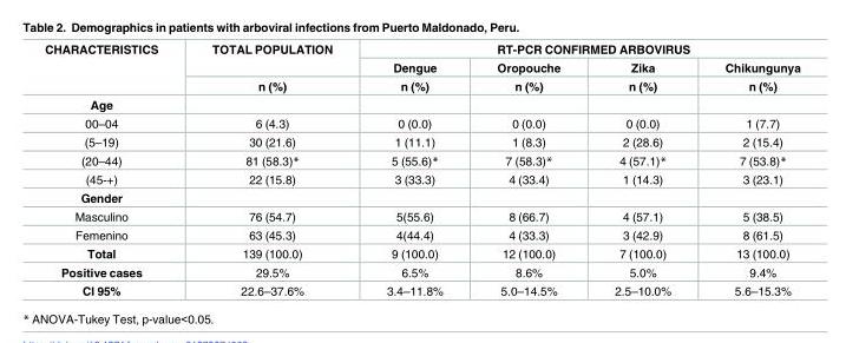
<table><thead><tr><td rowspan="3">CHARACTERISTICS</td><td rowspan="3">TOTAL POPULATION n (%)</td><td colspan="4">RT-PCR CONFIRMED ARBOVIRUS</td></tr><tr><td rowspan="2">Dengue n (%)</td><td rowspan="2">Oropouche n (%)</td><td rowspan="2">Zika n (%)</td><td rowspan="2">Chikungunya n (%)</td></tr><tr></tr></thead><tbody><tr><td colspan="6">Age</td></tr><tr><td>00–04</td><td>6 (4.3)</td><td>0 (0.0)</td><td>0 (0.0)</td><td>0 (0.0)</td><td>1 (7.7)</td></tr><tr><td>(5–19)</td><td>30 (21.6)</td><td>1 (11.1)</td><td>1 (8.3)</td><td>2 (28.6)</td><td>2 (15.4)</td></tr><tr><td>(20–44)</td><td>81 (58.3)*</td><td>5 (55.6)*</td><td>7 (58.3)*</td><td>4 (57.1)*</td><td>7 (53.8)*</td></tr><tr><td>(45-+)</td><td>22 (15.8)</td><td>3 (33.3)</td><td>4 (33.4)</td><td>1 (14.3)</td><td>3 (23.1)</td></tr><tr><td colspan="6">Gender</td></tr><tr><td>Masculino</td><td>76 (54.7)</td><td>5(55.6)</td><td>8 (66.7)</td><td>4 (57.1)</td><td>5 (38.5)</td></tr><tr><td>Femenino</td><td>63 (45.3)</td><td>4(44.4)</td><td>4 (33.3)</td><td>3 (42.9)</td><td>8 (61.5)</td></tr><tr><td>Total</td><td>139 (100.0)</td><td>9 (100.0)</td><td>12 (100.0)</td><td>7 (100.0)</td><td>13 (100.0)</td></tr><tr><td>Positive cases</td><td>29.5%</td><td>6.5%</td><td>8.6%</td><td>5.0%</td><td>9.4%</td></tr><tr><td>CI 95%</td><td>22.6–37.6%</td><td>3.4–11.8%</td><td>5.0–14.5%</td><td>2.5–10.0%</td><td>5.6–15.3%</td></tr></tbody></table>